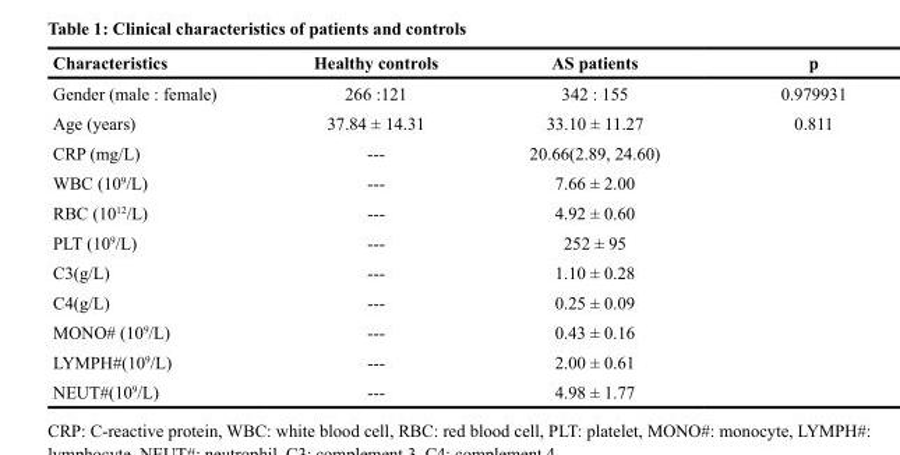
<table><thead><tr><td>Characteristics</td><td>Healthy controls</td><td>AS patients</td><td>p</td></tr></thead><tbody><tr><td>Gender (male : female)</td><td>266 :121</td><td>342 : 155</td><td>0.979931</td></tr><tr><td>Age (years)</td><td>37.84 ± 14.31</td><td>33.10 ± 11.27</td><td>0.811</td></tr><tr><td>CRP (mg/L)</td><td>---</td><td>20.66(2.89, 24.60)</td><td></td></tr><tr><td>WBC (10<sup>9</sup>/L)</td><td>---</td><td>7.66 ± 2.00</td><td></td></tr><tr><td>RBC (10<sup>12</sup>/L)</td><td>---</td><td>4.92 ± 0.60</td><td></td></tr><tr><td>PLT (10<sup>9</sup>/L)</td><td>---</td><td>252 ± 95</td><td></td></tr><tr><td>C3(g/L)</td><td>---</td><td>1.10 ± 0.28</td><td></td></tr><tr><td>C4(g/L)</td><td>---</td><td>0.25 ± 0.09</td><td></td></tr><tr><td>MONO# (10<sup>9</sup>/L)</td><td>---</td><td>0.43 ± 0.16</td><td></td></tr><tr><td>LYMPH#(10<sup>9</sup>/L)</td><td>---</td><td>2.00 ± 0.61</td><td></td></tr><tr><td>NEUT#(10<sup>9</sup>/L)</td><td>---</td><td>4.98 ± 1.77</td><td></td></tr></tbody></table>